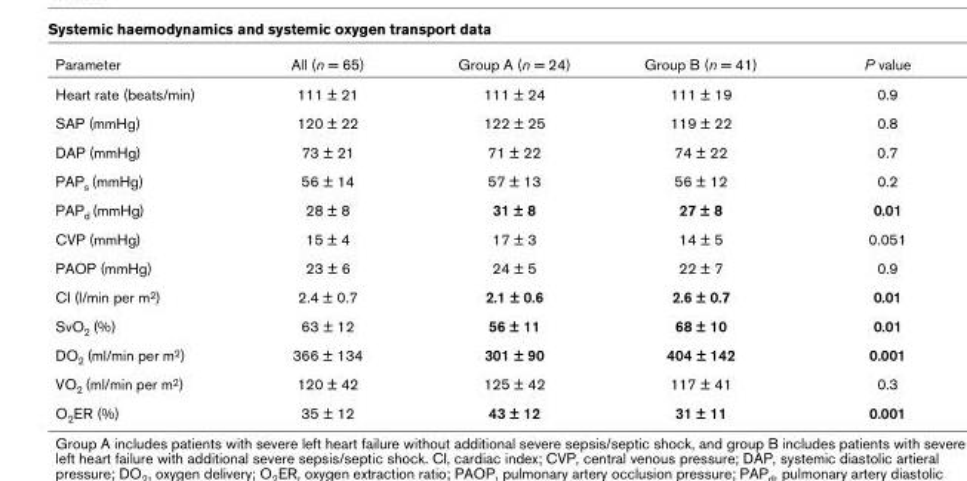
<table><thead><tr><td>Parameter</td><td>All (n = 65)</td><td>Group A (n = 24)</td><td>Group B (n = 41)</td><td>P value</td></tr></thead><tbody><tr><td>Heart rate (beats/min)</td><td>111 ± 21</td><td>111 ± 24</td><td>111 ± 19</td><td>0.9</td></tr><tr><td>SAP (mmHg)</td><td>120 ± 22</td><td>122 ± 25</td><td>119 ± 22</td><td>0.8</td></tr><tr><td>DAP (mmHg)</td><td>73 ± 21</td><td>71 ± 22</td><td>74 ± 22</td><td>0.7</td></tr><tr><td>PAP<sub>s</sub> (mmHg)</td><td>56 ± 14</td><td>57 ± 13</td><td>56 ± 12</td><td>0.2</td></tr><tr><td>PAP<sub>d</sub> (mmHg)</td><td>28 ± 8</td><td>31 ± 8</td><td>27 ± 8</td><td>0.01</td></tr><tr><td>CVP (mmHg)</td><td>15 ± 4</td><td>17 ± 3</td><td>14 ± 5</td><td>0.051</td></tr><tr><td>PAOP (mmHg)</td><td>23 ± 6</td><td>24 ± 5</td><td>22 ± 7</td><td>0.9</td></tr><tr><td>CI (l/min per m<sup>2</sup>)</td><td>2.4 ± 0.7</td><td>2.1 ± 0.6</td><td>2.6 ± 0.7</td><td>0.01</td></tr><tr><td>SvO<sub>2</sub> (%)</td><td>63 ± 12</td><td>56 ± 11</td><td>68 ± 10</td><td>0.01</td></tr><tr><td>DO<sub>2</sub> (ml/min per m<sup>2</sup>)</td><td>366 ± 134</td><td>301 ± 90</td><td>404 ± 142</td><td>0.001</td></tr><tr><td>VO<sub>2</sub> (ml/min per m<sup>2</sup>)</td><td>120 ± 42</td><td>125 ± 42</td><td>117 ± 41</td><td>0.3</td></tr><tr><td>O<sub>2</sub>ER (%)</td><td>35 ± 12</td><td>43 ± 12</td><td>31 ± 11</td><td>0.001</td></tr></tbody></table>